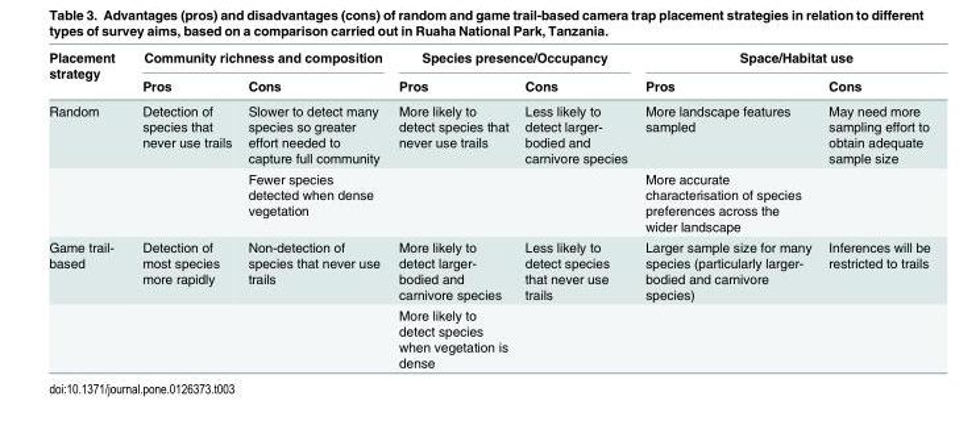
<table><thead><tr><td rowspan="2">Placement strategy</td><td colspan="2">Community richness and composition</td><td colspan="2">Species presence/Occupancy</td><td colspan="2">Space/Habitat use</td></tr><tr><td>Pros</td><td>Cons</td><td>Pros</td><td>Cons</td><td>Pros</td><td>Cons</td></tr></thead><tbody><tr><td rowspan="2">Random</td><td>Detection of species that never use trails</td><td>Slower to detect many species so greater effort needed to capture full community</td><td>More likely to detect species that never use trails</td><td>Less likely to detect larger- bodied and carnivore species</td><td>More landscape features sampled</td><td>May need more sampling effort to obtain adequate sample size</td></tr><tr><td></td><td>Fewer species detected when dense vegetation</td><td></td><td></td><td>More accurate characterisation of species preferences across the wider landscape</td><td></td></tr><tr><td rowspan="2">Game trail- based</td><td>Detection of most species more rapidly</td><td>Non-detection of species that never use trails</td><td>More likely to detect larger- bodied and carnivore species</td><td>Less likely to detect species that never use trails</td><td>Larger sample size for many species (particularly larger- bodied and carnivore species)</td><td>Inferences will be restricted to trails</td></tr><tr><td></td><td></td><td>More likely to detect species when vegetation is dense</td><td></td><td></td><td></td></tr></tbody></table>